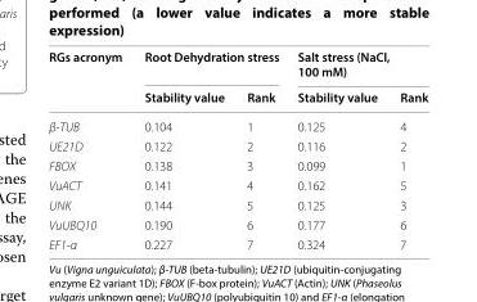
<table><thead><tr><td rowspan="2">RGs acronym</td><td colspan="2">Root Dehydration stress</td><td colspan="2">Salt stress (NaCl, 100 mM)</td></tr><tr><td>Stability value</td><td>Rank</td><td>Stability value</td><td>Rank</td></tr></thead><tbody><tr><td>β‑TUB</td><td>0.104</td><td>1</td><td>0.125</td><td>4</td></tr><tr><td>UE21D</td><td>0.122</td><td>2</td><td>0.116</td><td>2</td></tr><tr><td>FBOX</td><td>0.138</td><td>3</td><td>0.099</td><td>1</td></tr><tr><td>VuACT</td><td>0.141</td><td>4</td><td>0.162</td><td>5</td></tr><tr><td>UNK</td><td>0.144</td><td>5</td><td>0.125</td><td>3</td></tr><tr><td>VuUBQ10</td><td>0.190</td><td>6</td><td>0.177</td><td>6</td></tr><tr><td>EF1‑α</td><td>0.227</td><td>7</td><td>0.324</td><td>7</td></tr></tbody></table>